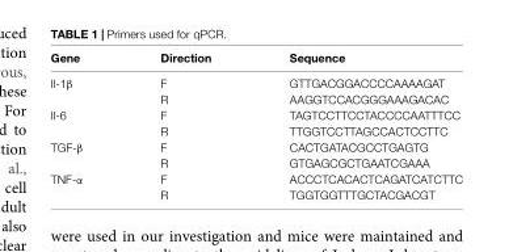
<table><thead><tr><td>Gene</td><td>Direction</td><td>Sequence</td></tr></thead><tbody><tr><td rowspan="2">Il-1β</td><td>F</td><td>GTTGACGGACCCCAAAAGAT</td></tr><tr><td>R</td><td>AAGGTCCACGGGAAAGACAC</td></tr><tr><td rowspan="2">Il-6</td><td>F</td><td>TAGTCCTTCCTACCCCAATTTCC</td></tr><tr><td>R</td><td>TTGGTCCTTAGCCACTCCTTC</td></tr><tr><td rowspan="2">TGF-β</td><td>F</td><td>CACTGATACGCCTGAGTG</td></tr><tr><td>R</td><td>GTGAGCGCTGAATCGAAA</td></tr><tr><td rowspan="2">TNF-α</td><td>F</td><td>ACCCTCACACTCAGATCATCTTC</td></tr><tr><td>R</td><td>TGGTGGTTTGCTACGACGT</td></tr></tbody></table>